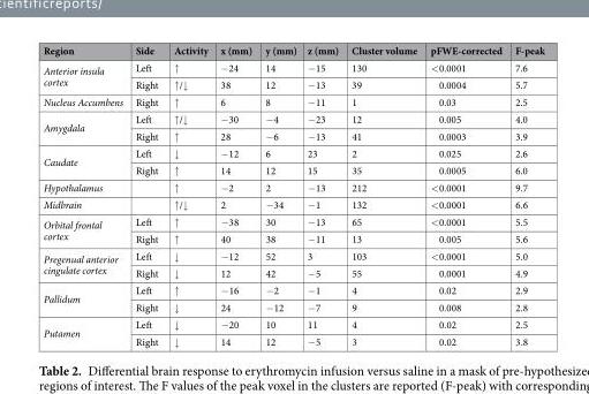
<table><thead><tr><td>Region</td><td>Side</td><td>Activity</td><td>x (mm)</td><td>y (mm)</td><td>z (mm)</td><td>Cluster volume</td><td>pFWE-corrected</td><td>F-peak</td></tr></thead><tbody><tr><td rowspan="2">Anterior insula cortex</td><td>Left</td><td>↑</td><td>−24</td><td>14</td><td>−15</td><td>130</td><td>&lt;0.0001</td><td>7.6</td></tr><tr><td>Right</td><td>↑/↓</td><td>38</td><td>12</td><td>−13</td><td>39</td><td>0.0004</td><td>5.7</td></tr><tr><td>Nucleus Accumbens</td><td>Right</td><td>↑</td><td>6</td><td>8</td><td>−11</td><td>1</td><td>0.03</td><td>2.5</td></tr><tr><td rowspan="2">Amygdala</td><td>Left</td><td>↑/↓</td><td>−30</td><td>−4</td><td>−23</td><td>12</td><td>0.005</td><td>4.0</td></tr><tr><td>Right</td><td>↑</td><td>28</td><td>−6</td><td>−13</td><td>41</td><td>0.0003</td><td>3.9</td></tr><tr><td rowspan="2">Caudate</td><td>Left</td><td>↓</td><td>−12</td><td>6</td><td>23</td><td>2</td><td>0.025</td><td>2.6</td></tr><tr><td>Right</td><td>↑</td><td>14</td><td>12</td><td>15</td><td>35</td><td>0.0005</td><td>6.0</td></tr><tr><td>Hypothalamus</td><td></td><td>↑</td><td>−2</td><td>2</td><td>−13</td><td>212</td><td>&lt;0.0001</td><td>9.7</td></tr><tr><td>Midbrain</td><td></td><td>↑/↓</td><td>2</td><td>−34</td><td>−1</td><td>132</td><td>&lt;0.0001</td><td>6.6</td></tr><tr><td rowspan="2">Orbital frontal cortex</td><td>Left</td><td>↑</td><td>−38</td><td>30</td><td>−13</td><td>65</td><td>&lt;0.0001</td><td>5.5</td></tr><tr><td>Right</td><td>↑</td><td>40</td><td>38</td><td>−11</td><td>13</td><td>0.005</td><td>5.6</td></tr><tr><td rowspan="2">Pregenual anterior cingulate cortex</td><td>Left</td><td>↓</td><td>−12</td><td>52</td><td>3</td><td>103</td><td>&lt;0.0001</td><td>5.0</td></tr><tr><td>Right</td><td>↓</td><td>12</td><td>42</td><td>−5</td><td>55</td><td>0.0001</td><td>4.9</td></tr><tr><td rowspan="2">Pallidum</td><td>Left</td><td>↑</td><td>−16</td><td>−2</td><td>−1</td><td>4</td><td>0.02</td><td>2.9</td></tr><tr><td>Right</td><td>↓</td><td>24</td><td>−12</td><td>−7</td><td>9</td><td>0.008</td><td>2.8</td></tr><tr><td rowspan="2">Putamen</td><td>Left</td><td>↓</td><td>−20</td><td>10</td><td>11</td><td>4</td><td>0.02</td><td>2.5</td></tr><tr><td>Right</td><td>↓</td><td>14</td><td>12</td><td>−5</td><td>3</td><td>0.02</td><td>3.8</td></tr></tbody></table>